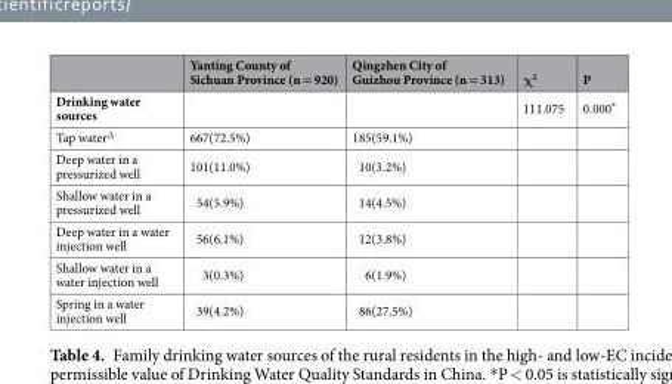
<table><thead><tr><td></td><td>Yanting County of Sichuan Province (n = 920)</td><td>Qingzhen City of Guizhou Province (n = 313)</td><td>χ<sup>2</sup></td><td>P</td></tr></thead><tbody><tr><td>Drinking water sources</td><td></td><td></td><td>111.075</td><td>0.000*</td></tr><tr><td>Tap water<sup>Δ</sup></td><td>667(72.5%)</td><td>185(59.1%)</td><td></td><td></td></tr><tr><td>Deep water in a pressurized well</td><td>101(11.0%)</td><td>10(3.2%)</td><td></td><td></td></tr><tr><td>Shallow water in a pressurized well</td><td>54(5.9%)</td><td>14(4.5%)</td><td></td><td></td></tr><tr><td>Deep water in a water injection well</td><td>56(6.1%)</td><td>12(3.8%)</td><td></td><td></td></tr><tr><td>Shallow water in a water injection well</td><td>3(0.3%)</td><td>6(1.9%)</td><td></td><td></td></tr><tr><td>Spring in a water injection well</td><td>39(4.2%)</td><td>86(27.5%)</td><td></td><td></td></tr></tbody></table>